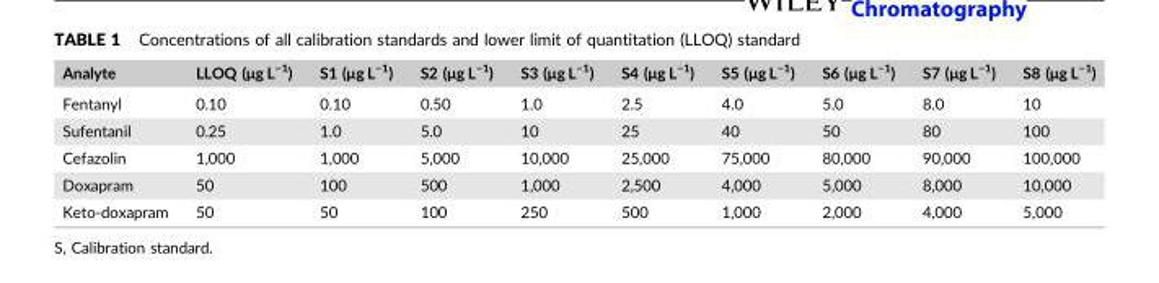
<table><thead><tr><td>Analyte</td><td>LLOQ (μg L<sup>−1</sup>)</td><td>S1 (μg L<sup>−1</sup>)</td><td>S2 (μg L<sup>−1</sup>)</td><td>S3 (μg L<sup>−1</sup>)</td><td>S4 (μg L<sup>−1</sup>)</td><td>S5 (μg L<sup>−1</sup>)</td><td>S6 (μg L<sup>−1</sup>)</td><td>S7 (μg L<sup>−1</sup>)</td><td>S8 (μg L<sup>−1</sup>)</td></tr></thead><tbody><tr><td>Fentanyl</td><td>0.10</td><td>0.10</td><td>0.50</td><td>1.0</td><td>2.5</td><td>4.0</td><td>5.0</td><td>8.0</td><td>10</td></tr><tr><td>Sufentanil</td><td>0.25</td><td>1.0</td><td>5.0</td><td>10</td><td>25</td><td>40</td><td>50</td><td>80</td><td>100</td></tr><tr><td>Cefazolin</td><td>1,000</td><td>1,000</td><td>5,000</td><td>10,000</td><td>25,000</td><td>75,000</td><td>80,000</td><td>90,000</td><td>100,000</td></tr><tr><td>Doxapram</td><td>50</td><td>100</td><td>500</td><td>1,000</td><td>2,500</td><td>4,000</td><td>5,000</td><td>8,000</td><td>10,000</td></tr><tr><td>Keto‐doxapram</td><td>50</td><td>50</td><td>100</td><td>250</td><td>500</td><td>1,000</td><td>2,000</td><td>4,000</td><td>5,000</td></tr></tbody></table>